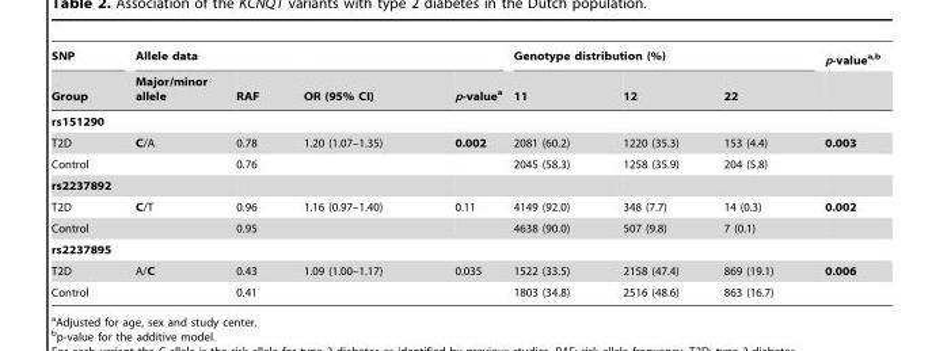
<table><thead><tr><td rowspan="2">SNP Group</td><td colspan="4">Allele data</td><td colspan="3">Genotype distribution (%)</td><td rowspan="2">p-value<sup>a,</sup>b</td></tr><tr><td>Major/minor allele</td><td>RAF</td><td>OR (95% CI)</td><td>p-value<sup>a</sup></td><td>11</td><td>12</td><td>22</td></tr></thead><tbody><tr><td colspan="9">rs151290</td></tr><tr><td>T2D</td><td>C/A</td><td>0.78</td><td>1.20 (1.07–1.35)</td><td>0.002</td><td>2081 (60.2)</td><td>1220 (35.3)</td><td>153 (4.4)</td><td>0.003</td></tr><tr><td>Control</td><td></td><td>0.76</td><td></td><td></td><td>2045 (58.3)</td><td>1258 (35.9)</td><td>204 (5.8)</td><td></td></tr><tr><td colspan="9">rs2237892</td></tr><tr><td>T2D</td><td>C/T</td><td>0.96</td><td>1.16 (0.97–1.40)</td><td>0.11</td><td>4149 (92.0)</td><td>348 (7.7)</td><td>14 (0.3)</td><td>0.002</td></tr><tr><td>Control</td><td></td><td>0.95</td><td></td><td></td><td>4638 (90.0)</td><td>507 (9.8)</td><td>7 (0.1)</td><td></td></tr><tr><td colspan="9">rs2237895</td></tr><tr><td>T2D</td><td>A/C</td><td>0.43</td><td>1.09 (1.00–1.17)</td><td>0.035</td><td>1522 (33.5)</td><td>2158 (47.4)</td><td>869 (19.1)</td><td>0.006</td></tr><tr><td>Control</td><td></td><td>0.41</td><td></td><td></td><td>1803 (34.8)</td><td>2516 (48.6)</td><td>863 (16.7)</td><td></td></tr></tbody></table>